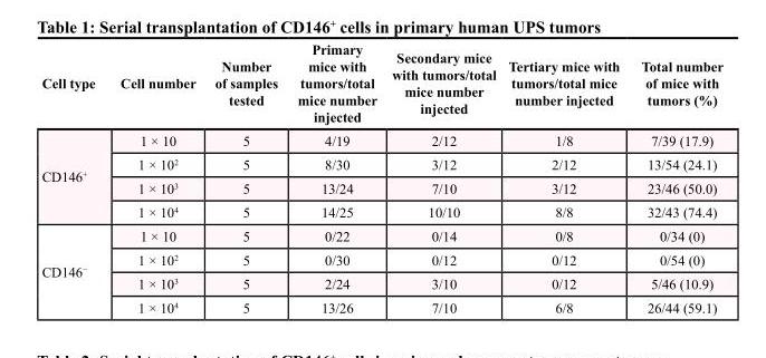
<table><thead><tr><td>Cell type</td><td>Cell number</td><td>Number of samples tested</td><td>Primary mice with tumors/total mice number injected</td><td>Secondary mice with tumors/total mice number injected</td><td>Tertiary mice with tumors/total mice number injected</td><td>Total number of mice with tumors (%)</td></tr></thead><tbody><tr><td rowspan="4">CD146<sup>+</sup></td><td>1 × 10</td><td>5</td><td>4/19</td><td>2/12</td><td>1/8</td><td>7/39 (17.9)</td></tr><tr><td>1 × 10<sup>2</sup></td><td>5</td><td>8/30</td><td>3/12</td><td>2/12</td><td>13/54 (24.1)</td></tr><tr><td>1 × 10<sup>3</sup></td><td>5</td><td>13/24</td><td>7/10</td><td>3/12</td><td>23/46 (50.0)</td></tr><tr><td>1 × 10<sup>4</sup></td><td>5</td><td>14/25</td><td>10/10</td><td>8/8</td><td>32/43 (74.4)</td></tr><tr><td rowspan="4">CD146<sup>−</sup></td><td>1 × 10</td><td>5</td><td>0/22</td><td>0/14</td><td>0/8</td><td>0/34 (0)</td></tr><tr><td>1 × 10<sup>2</sup></td><td>5</td><td>0/30</td><td>0/12</td><td>0/12</td><td>0/54 (0)</td></tr><tr><td>1 × 10<sup>3</sup></td><td>5</td><td>2/24</td><td>3/10</td><td>0/12</td><td>5/46 (10.9)</td></tr><tr><td>1 × 10<sup>4</sup></td><td>5</td><td>13/26</td><td>7/10</td><td>6/8</td><td>26/44 (59.1)</td></tr></tbody></table>